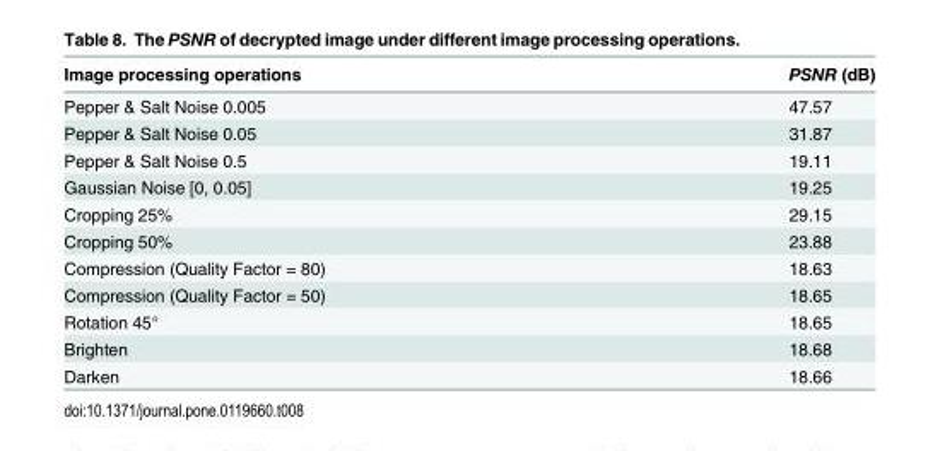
<table><thead><tr><td>Image processing operations</td><td>PSNR (dB)</td></tr></thead><tbody><tr><td>Pepper &amp; Salt Noise 0.005</td><td>47.57</td></tr><tr><td>Pepper &amp; Salt Noise 0.05</td><td>31.87</td></tr><tr><td>Pepper &amp; Salt Noise 0.5</td><td>19.11</td></tr><tr><td>Gaussian Noise [0, 0.05]</td><td>19.25</td></tr><tr><td>Cropping 25%</td><td>29.15</td></tr><tr><td>Cropping 50%</td><td>23.88</td></tr><tr><td>Compression (Quality Factor = 80)</td><td>18.63</td></tr><tr><td>Compression (Quality Factor = 50)</td><td>18.65</td></tr><tr><td>Rotation 45°</td><td>18.65</td></tr><tr><td>Brighten</td><td>18.68</td></tr><tr><td>Darken</td><td>18.66</td></tr></tbody></table>